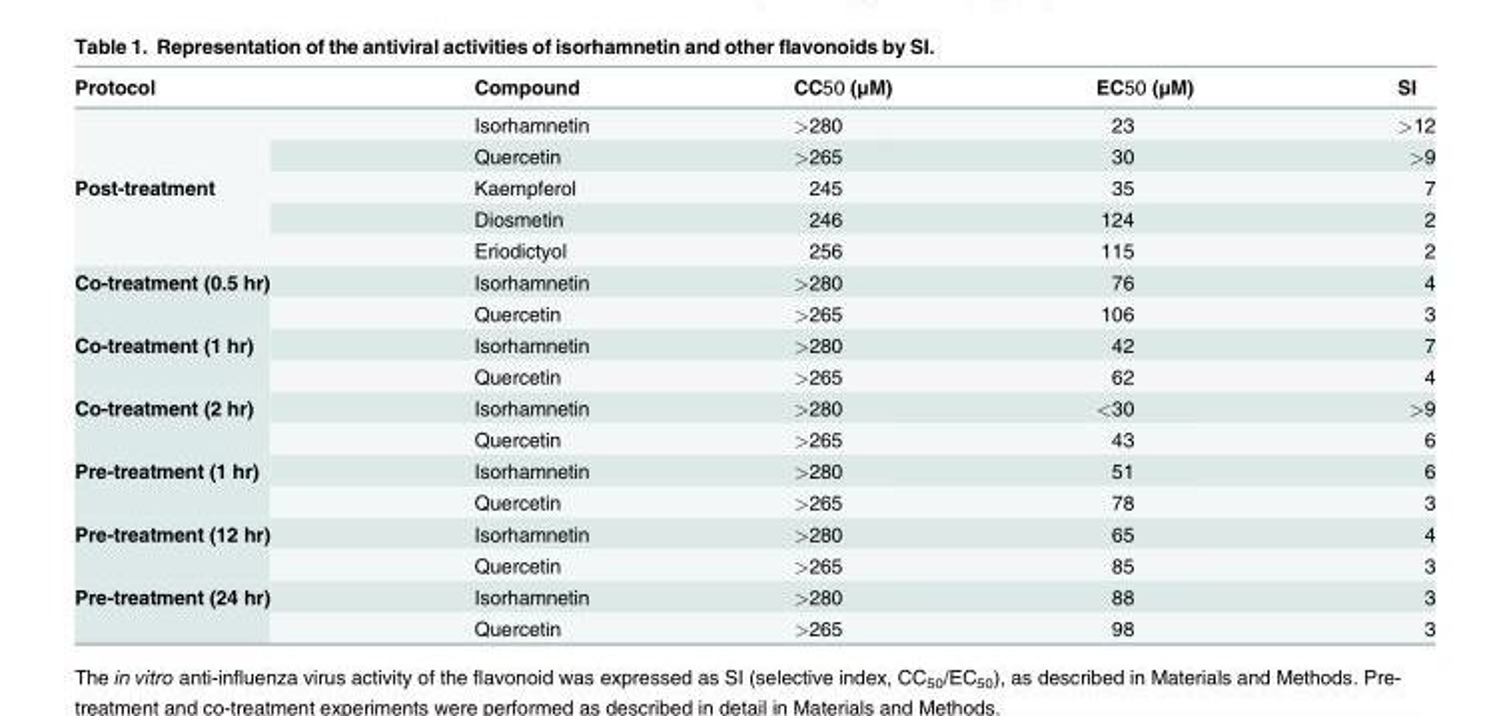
<table><thead><tr><td>Protocol</td><td>Compound</td><td>CC50 (μM)</td><td>EC50 (μM)</td><td>SI</td></tr></thead><tbody><tr><td rowspan="5">Post-treatment</td><td>Isorhamnetin</td><td>&gt;280</td><td>23</td><td>&gt;12</td></tr><tr><td>Quercetin</td><td>&gt;265</td><td>30</td><td>&gt;9</td></tr><tr><td>Kaempferol</td><td>245</td><td>35</td><td>7</td></tr><tr><td>Diosmetin</td><td>246</td><td>124</td><td>2</td></tr><tr><td>Eriodictyol</td><td>256</td><td>115</td><td>2</td></tr><tr><td rowspan="2">Co-treatment (0.5 hr)</td><td>Isorhamnetin</td><td>&gt;280</td><td>76</td><td>4</td></tr><tr><td>Quercetin</td><td>&gt;265</td><td>106</td><td>3</td></tr><tr><td rowspan="2">Co-treatment (1 hr)</td><td>Isorhamnetin</td><td>&gt;280</td><td>42</td><td>7</td></tr><tr><td>Quercetin</td><td>&gt;265</td><td>62</td><td>4</td></tr><tr><td rowspan="2">Co-treatment (2 hr)</td><td>Isorhamnetin</td><td>&gt;280</td><td>&lt;30</td><td>&gt;9</td></tr><tr><td>Quercetin</td><td>&gt;265</td><td>43</td><td>6</td></tr><tr><td rowspan="2">Pre-treatment (1 hr)</td><td>Isorhamnetin</td><td>&gt;280</td><td>51</td><td>6</td></tr><tr><td>Quercetin</td><td>&gt;265</td><td>78</td><td>3</td></tr><tr><td rowspan="2">Pre-treatment (12 hr)</td><td>Isorhamnetin</td><td>&gt;280</td><td>65</td><td>4</td></tr><tr><td>Quercetin</td><td>&gt;265</td><td>85</td><td>3</td></tr><tr><td rowspan="2">Pre-treatment (24 hr)</td><td>Isorhamnetin</td><td>&gt;280</td><td>88</td><td>3</td></tr><tr><td>Quercetin</td><td>&gt;265</td><td>98</td><td>3</td></tr></tbody></table>